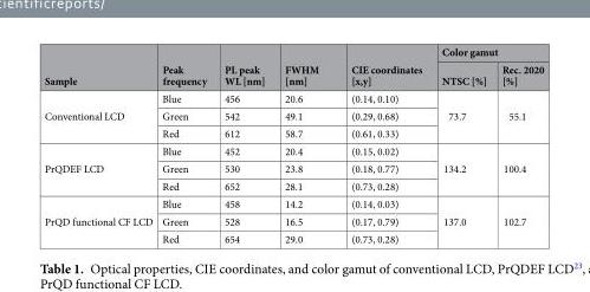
<table><thead><tr><td rowspan="2">Sample</td><td rowspan="2">Peak frequency</td><td rowspan="2">PL peak WL [nm]</td><td rowspan="2">FWHM [nm]</td><td rowspan="2">CIE coordinates [x,y]</td><td colspan="2">Color gamut</td></tr><tr><td>NTSC [%]</td><td>Rec. 2020 [%]</td></tr></thead><tbody><tr><td rowspan="3">Conventional LCD</td><td>Blue</td><td>456</td><td>20.6</td><td>(0.14, 0.10)</td><td rowspan="3">73.7</td><td rowspan="3">55.1</td></tr><tr><td>Green</td><td>542</td><td>49.1</td><td>(0.29, 0.68)</td></tr><tr><td>Red</td><td>612</td><td>58.7</td><td>(0.61, 0.33)</td></tr><tr><td rowspan="3">PrQDEF LCD</td><td>Blue</td><td>452</td><td>20.4</td><td>(0.15, 0.02)</td><td rowspan="3">134.2</td><td rowspan="3">100.4</td></tr><tr><td>Green</td><td>530</td><td>23.8</td><td>(0.18, 0.77)</td></tr><tr><td>Red</td><td>652</td><td>28.1</td><td>(0.73, 0.28)</td></tr><tr><td rowspan="3">PrQD functional CF LCD</td><td>Blue</td><td>458</td><td>14.2</td><td>(0.14, 0.03)</td><td rowspan="3">137.0</td><td rowspan="3">102.7</td></tr><tr><td>Green</td><td>528</td><td>16.5</td><td>(0.17, 0.79)</td></tr><tr><td>Red</td><td>654</td><td>29.0</td><td>(0.73, 0.28)</td></tr></tbody></table>